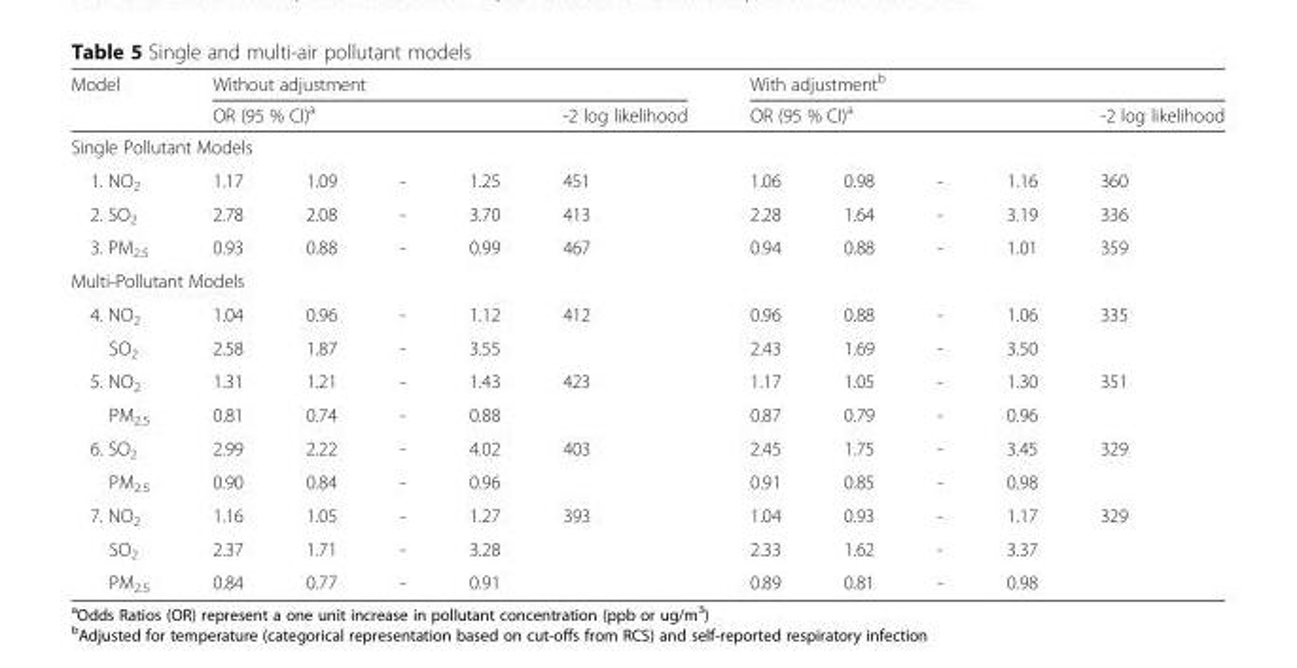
<table><thead><tr><td rowspan="2">Model</td><td colspan="5">Without adjustment</td><td colspan="5">With adjustment<sup>b</sup></td></tr><tr><td colspan="4">OR (95 % CI)<sup>a</sup></td><td>-2 log likelihood</td><td colspan="4">OR (95 % CI)<sup>a</sup></td><td>-2 log likelihood</td></tr><tr><td colspan="11">Single Pollutant Models</td></tr><tr><td>1. NO<sub>2</sub></td><td>1.17</td><td>1.09</td><td>-</td><td>1.25</td><td>451</td><td>1.06</td><td>0.98</td><td>-</td><td>1.16</td><td>360</td></tr></thead><tbody><tr><td>2. SO<sub>2</sub></td><td>2.78</td><td>2.08</td><td>-</td><td>3.70</td><td>413</td><td>2.28</td><td>1.64</td><td>-</td><td>3.19</td><td>336</td></tr><tr><td>3. PM<sub>2.5</sub></td><td>0.93</td><td>0.88</td><td>-</td><td>0.99</td><td>467</td><td>0.94</td><td>0.88</td><td>-</td><td>1.01</td><td>359</td></tr><tr><td colspan="11">Multi-Pollutant Models</td></tr><tr><td>4. NO<sub>2</sub></td><td>1.04</td><td>0.96</td><td>-</td><td>1.12</td><td>412</td><td>0.96</td><td>0.88</td><td>-</td><td>1.06</td><td>335</td></tr><tr><td>SO<sub>2</sub></td><td>2.58</td><td>1.87</td><td>-</td><td>3.55</td><td></td><td>2.43</td><td>1.69</td><td>-</td><td>3.50</td><td></td></tr><tr><td>5. NO<sub>2</sub></td><td>1.31</td><td>1.21</td><td>-</td><td>1.43</td><td>423</td><td>1.17</td><td>1.05</td><td>-</td><td>1.30</td><td>351</td></tr><tr><td>PM<sub>2.5</sub></td><td>0.81</td><td>0.74</td><td>-</td><td>0.88</td><td></td><td>0.87</td><td>0.79</td><td>-</td><td>0.96</td><td></td></tr><tr><td>6. SO<sub>2</sub></td><td>2.99</td><td>2.22</td><td>-</td><td>4.02</td><td>403</td><td>2.45</td><td>1.75</td><td>-</td><td>3.45</td><td>329</td></tr><tr><td>PM<sub>2.5</sub></td><td>0.90</td><td>0.84</td><td>-</td><td>0.96</td><td></td><td>0.91</td><td>0.85</td><td>-</td><td>0.98</td><td></td></tr><tr><td>7. NO<sub>2</sub></td><td>1.16</td><td>1.05</td><td>-</td><td>1.27</td><td>393</td><td>1.04</td><td>0.93</td><td>-</td><td>1.17</td><td>329</td></tr><tr><td>SO<sub>2</sub></td><td>2.37</td><td>1.71</td><td>-</td><td>3.28</td><td></td><td>2.33</td><td>1.62</td><td>-</td><td>3.37</td><td></td></tr><tr><td>PM<sub>2.5</sub></td><td>0.84</td><td>0.77</td><td>-</td><td>0.91</td><td></td><td>0.89</td><td>0.81</td><td>-</td><td>0.98</td><td></td></tr></tbody></table>